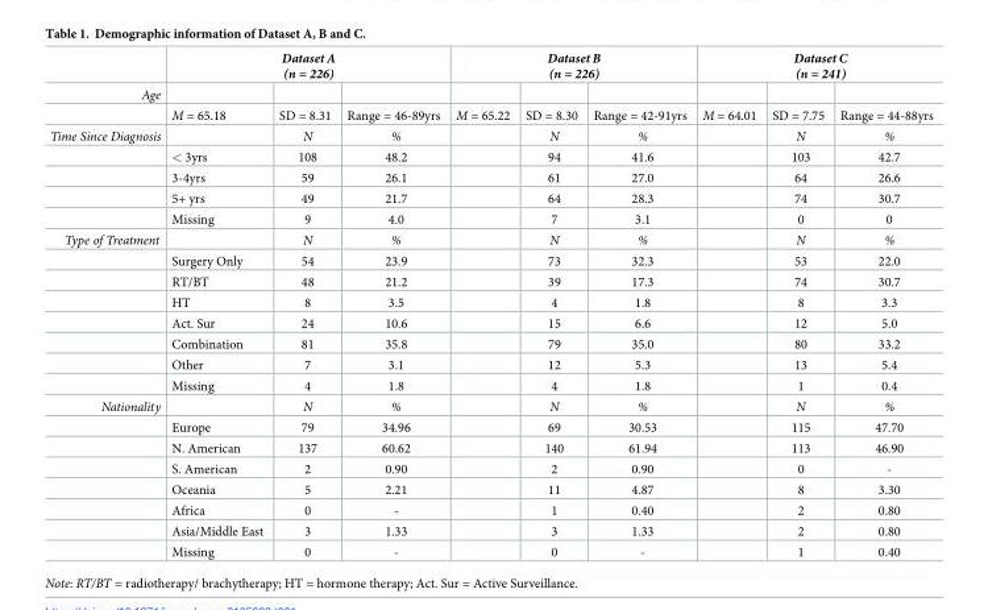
<table><thead><tr><td rowspan="2">Age</td><td colspan="3">Dataset A (n = 226)</td><td colspan="3">Dataset B (n = 226)</td><td colspan="3">Dataset C (n = 241)</td></tr><tr><td></td><td></td><td></td><td></td><td></td><td></td><td></td><td></td><td></td></tr></thead><tbody><tr><td></td><td>M = 65.18</td><td>SD = 8.31</td><td>Range = 46-89yrs</td><td>M = 65.22</td><td>SD = 8.30</td><td>Range = 42-91yrs</td><td>M = 64.01</td><td>SD = 7.75</td><td>Range = 44-88yrs</td></tr><tr><td rowspan="5">Time Since Diagnosis</td><td></td><td>N</td><td>%</td><td></td><td>N</td><td>%</td><td></td><td>N</td><td>%</td></tr><tr><td>&lt; 3yrs</td><td>108</td><td>48.2</td><td></td><td>94</td><td>41.6</td><td></td><td>103</td><td>42.7</td></tr><tr><td>3-4yrs</td><td>59</td><td>26.1</td><td></td><td>61</td><td>27.0</td><td></td><td>64</td><td>26.6</td></tr><tr><td>5+ yrs</td><td>49</td><td>21.7</td><td></td><td>64</td><td>28.3</td><td></td><td>74</td><td>30.7</td></tr><tr><td>Missing</td><td>9</td><td>4.0</td><td></td><td>7</td><td>3.1</td><td></td><td>0</td><td>0</td></tr><tr><td rowspan="8">Type of Treatment</td><td></td><td>N</td><td>%</td><td></td><td>N</td><td>%</td><td></td><td>N</td><td>%</td></tr><tr><td>Surgery Only</td><td>54</td><td>23.9</td><td></td><td>73</td><td>32.3</td><td></td><td>53</td><td>22.0</td></tr><tr><td>RT/BT</td><td>48</td><td>21.2</td><td></td><td>39</td><td>17.3</td><td></td><td>74</td><td>30.7</td></tr><tr><td>HT</td><td>8</td><td>3.5</td><td></td><td>4</td><td>1.8</td><td></td><td>8</td><td>3.3</td></tr><tr><td>Act. Sur</td><td>24</td><td>10.6</td><td></td><td>15</td><td>6.6</td><td></td><td>12</td><td>5.0</td></tr><tr><td>Combination</td><td>81</td><td>35.8</td><td></td><td>79</td><td>35.0</td><td></td><td>80</td><td>33.2</td></tr><tr><td>Other</td><td>7</td><td>3.1</td><td></td><td>12</td><td>5.3</td><td></td><td>13</td><td>5.4</td></tr><tr><td>Missing</td><td>4</td><td>1.8</td><td></td><td>4</td><td>1.8</td><td></td><td>1</td><td>0.4</td></tr><tr><td rowspan="8">Nationality</td><td></td><td>N</td><td>%</td><td></td><td>N</td><td>%</td><td></td><td>N</td><td>%</td></tr><tr><td>Europe</td><td>79</td><td>34.96</td><td></td><td>69</td><td>30.53</td><td></td><td>115</td><td>47.70</td></tr><tr><td>N. American</td><td>137</td><td>60.62</td><td></td><td>140</td><td>61.94</td><td></td><td>113</td><td>46.90</td></tr><tr><td>S. American</td><td>2</td><td>0.90</td><td></td><td>2</td><td>0.90</td><td></td><td>0</td><td>-</td></tr><tr><td>Oceania</td><td>5</td><td>2.21</td><td></td><td>11</td><td>4.87</td><td></td><td>8</td><td>3.30</td></tr><tr><td>Africa</td><td>0</td><td>-</td><td></td><td>1</td><td>0.40</td><td></td><td>2</td><td>0.80</td></tr><tr><td>Asia/Middle East</td><td>3</td><td>1.33</td><td></td><td>3</td><td>1.33</td><td></td><td>2</td><td>0.80</td></tr><tr><td>Missing</td><td>0</td><td>-</td><td></td><td>0</td><td>-</td><td></td><td>1</td><td>0.40</td></tr></tbody></table>